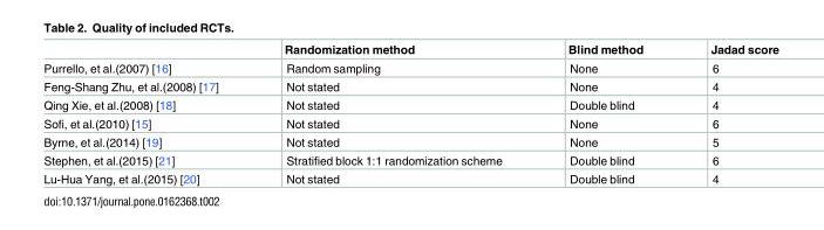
<table><thead><tr><td></td><td>Randomization method</td><td>Blind method</td><td>Jadad score</td></tr></thead><tbody><tr><td>Purrello, et al.(2007) [16]</td><td>Random sampling</td><td>None</td><td>6</td></tr><tr><td>Feng-Shang Zhu, et al.(2008) [17]</td><td>Not stated</td><td>None</td><td>4</td></tr><tr><td>Qing Xie, et al.(2008) [18]</td><td>Not stated</td><td>Double blind</td><td>4</td></tr><tr><td>Sofi, et al.(2010) [15]</td><td>Not stated</td><td>None</td><td>6</td></tr><tr><td>Byrne, et al.(2014) [19]</td><td>Not stated</td><td>None</td><td>5</td></tr><tr><td>Stephen, et al.(2015) [21]</td><td>Stratified block 1:1 randomization scheme</td><td>Double blind</td><td>6</td></tr><tr><td>Lu-Hua Yang, et al.(2015) [20]</td><td>Not stated</td><td>Double blind</td><td>4</td></tr></tbody></table>